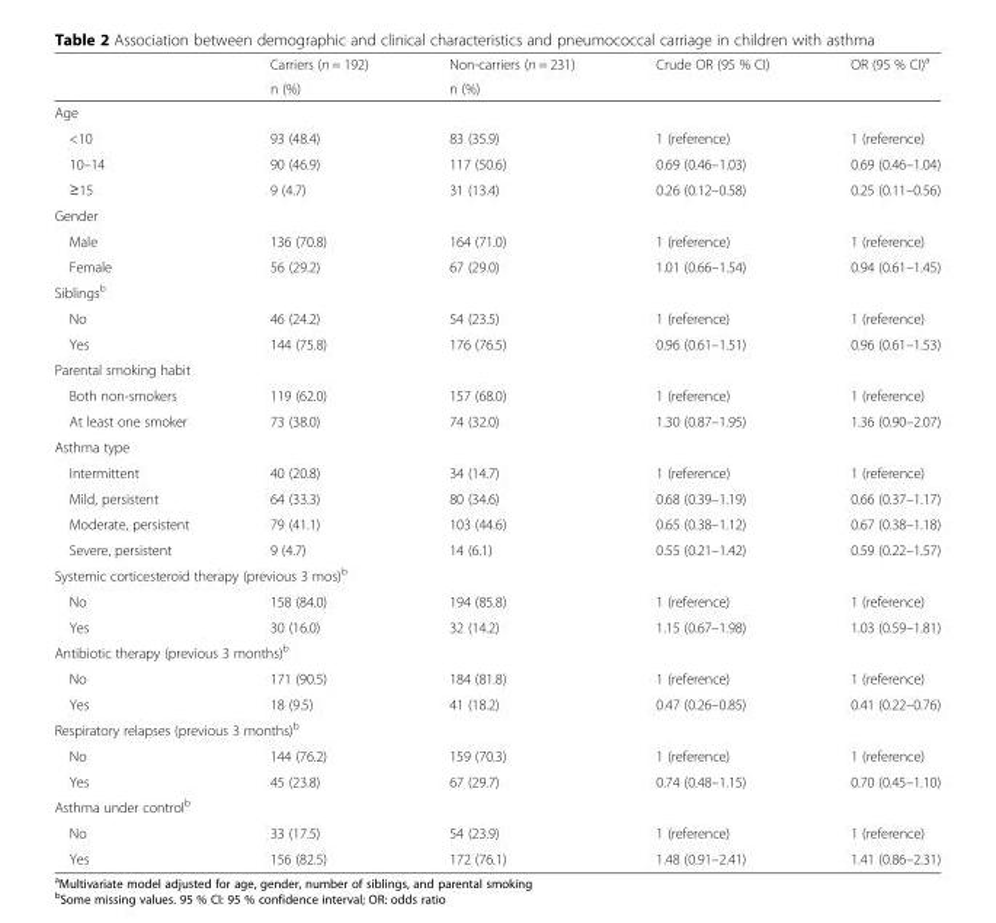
<table><thead><tr><td rowspan="2"></td><td rowspan="2">Carriers (n = 192) n (%)</td><td rowspan="2">Non-carriers (n = 231) n (%)</td><td rowspan="2">Crude OR (95 % CI)</td><td rowspan="2">OR (95 % CI)<sup>a</sup></td></tr><tr></tr></thead><tbody><tr><td colspan="5">Age</td></tr><tr><td>&lt;10</td><td>93 (48.4)</td><td>83 (35.9)</td><td>1 (reference)</td><td>1 (reference)</td></tr><tr><td>10–14</td><td>90 (46.9)</td><td>117 (50.6)</td><td>0.69 (0.46–1.03)</td><td>0.69 (0.46–1.04)</td></tr><tr><td>≥15</td><td>9 (4.7)</td><td>31 (13.4)</td><td>0.26 (0.12–0.58)</td><td>0.25 (0.11–0.56)</td></tr><tr><td colspan="5">Gender</td></tr><tr><td>Male</td><td>136 (70.8)</td><td>164 (71.0)</td><td>1 (reference)</td><td>1 (reference)</td></tr><tr><td>Female</td><td>56 (29.2)</td><td>67 (29.0)</td><td>1.01 (0.66–1.54)</td><td>0.94 (0.61–1.45)</td></tr><tr><td colspan="5">Siblings<sup>b</sup></td></tr><tr><td>No</td><td>46 (24.2)</td><td>54 (23.5)</td><td>1 (reference)</td><td>1 (reference)</td></tr><tr><td>Yes</td><td>144 (75.8)</td><td>176 (76.5)</td><td>0.96 (0.61–1.51)</td><td>0.96 (0.61–1.53)</td></tr><tr><td colspan="5">Parental smoking habit</td></tr><tr><td>Both non-smokers</td><td>119 (62.0)</td><td>157 (68.0)</td><td>1 (reference)</td><td>1 (reference)</td></tr><tr><td>At least one smoker</td><td>73 (38.0)</td><td>74 (32.0)</td><td>1.30 (0.87–1.95)</td><td>1.36 (0.90–2.07)</td></tr><tr><td colspan="5">Asthma type</td></tr><tr><td>Intermittent</td><td>40 (20.8)</td><td>34 (14.7)</td><td>1 (reference)</td><td>1 (reference)</td></tr><tr><td>Mild, persistent</td><td>64 (33.3)</td><td>80 (34.6)</td><td>0.68 (0.39–1.19)</td><td>0.66 (0.37–1.17)</td></tr><tr><td>Moderate, persistent</td><td>79 (41.1)</td><td>103 (44.6)</td><td>0.65 (0.38–1.12)</td><td>0.67 (0.38–1.18)</td></tr><tr><td>Severe, persistent</td><td>9 (4.7)</td><td>14 (6.1)</td><td>0.55 (0.21–1.42)</td><td>0.59 (0.22–1.57)</td></tr><tr><td colspan="5">Systemic corticesteroid therapy (previous 3 mos)<sup>b</sup></td></tr><tr><td>No</td><td>158 (84.0)</td><td>194 (85.8)</td><td>1 (reference)</td><td>1 (reference)</td></tr><tr><td>Yes</td><td>30 (16.0)</td><td>32 (14.2)</td><td>1.15 (0.67–1.98)</td><td>1.03 (0.59–1.81)</td></tr><tr><td colspan="5">Antibiotic therapy (previous 3 months)<sup>b</sup></td></tr><tr><td>No</td><td>171 (90.5)</td><td>184 (81.8)</td><td>1 (reference)</td><td>1 (reference)</td></tr><tr><td>Yes</td><td>18 (9.5)</td><td>41 (18.2)</td><td>0.47 (0.26–0.85)</td><td>0.41 (0.22–0.76)</td></tr><tr><td colspan="5">Respiratory relapses (previous 3 months)<sup>b</sup></td></tr><tr><td>No</td><td>144 (76.2)</td><td>159 (70.3)</td><td>1 (reference)</td><td>1 (reference)</td></tr><tr><td>Yes</td><td>45 (23.8)</td><td>67 (29.7)</td><td>0.74 (0.48–1.15)</td><td>0.70 (0.45–1.10)</td></tr><tr><td colspan="5">Asthma under control<sup>b</sup></td></tr><tr><td>No</td><td>33 (17.5)</td><td>54 (23.9)</td><td>1 (reference)</td><td>1 (reference)</td></tr><tr><td>Yes</td><td>156 (82.5)</td><td>172 (76.1)</td><td>1.48 (0.91–2.41)</td><td>1.41 (0.86–2.31)</td></tr></tbody></table>